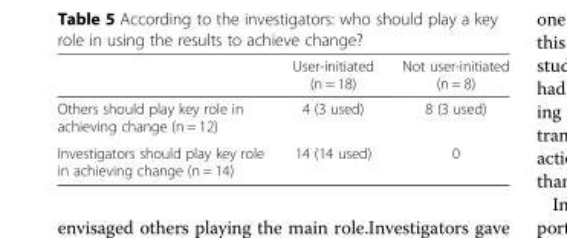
<table><thead><tr><td></td><td>User-initiated (n = 18)</td><td>Not user-initiated (n = 8)</td></tr></thead><tbody><tr><td>Others should play key role in achieving change (n = 12)</td><td>4 (3 used)</td><td>8 (3 used)</td></tr><tr><td>Investigators should play key role in achieving change (n = 14)</td><td>14 (14 used)</td><td>0</td></tr></tbody></table>